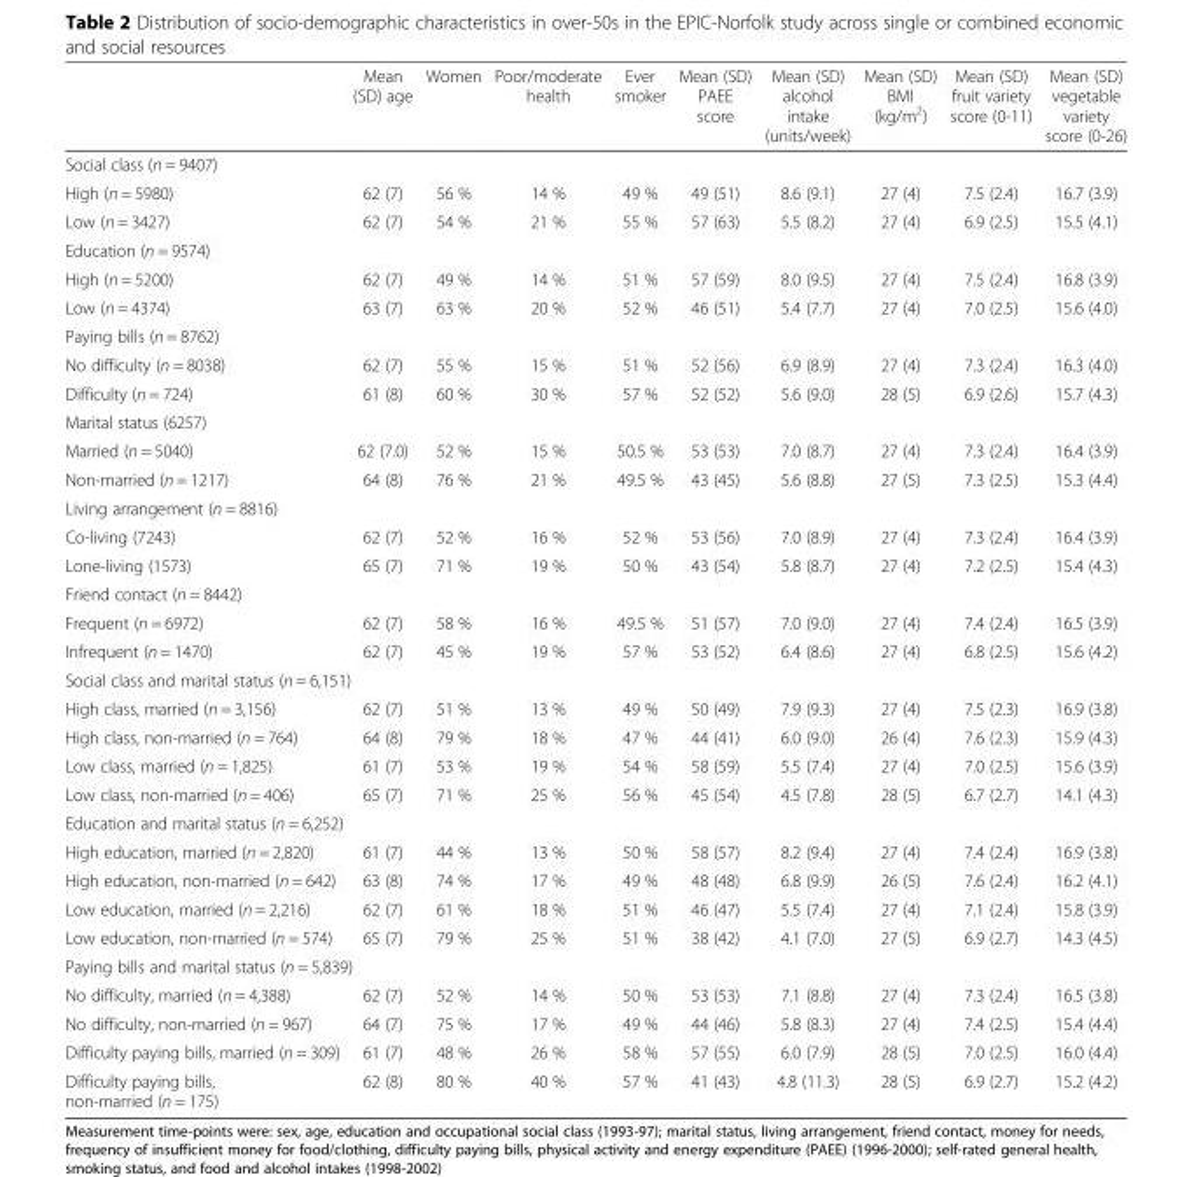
<table><thead><tr><td></td><td>Mean (SD) age</td><td>Women</td><td>Poor/moderate health</td><td>Ever smoker</td><td>Mean (SD) PAEE score</td><td>Mean (SD) alcohol intake (units/week)</td><td>Mean (SD) BMI (kg/m<sup>2</sup>)</td><td>Mean (SD) fruit variety score (0-11)</td><td>Mean (SD) vegetable variety score (0-26)</td></tr></thead><tbody><tr><td colspan="10">Social class (n = 9407)</td></tr><tr><td>High (n = 5980)</td><td>62 (7)</td><td>56 %</td><td>14 %</td><td>49 %</td><td>49 (51)</td><td>8.6 (9.1)</td><td>27 (4)</td><td>7.5 (2.4)</td><td>16.7 (3.9)</td></tr><tr><td>Low (n = 3427)</td><td>62 (7)</td><td>54 %</td><td>21 %</td><td>55 %</td><td>57 (63)</td><td>5.5 (8.2)</td><td>27 (4)</td><td>6.9 (2.5)</td><td>15.5 (4.1)</td></tr><tr><td colspan="10">Education (n = 9574)</td></tr><tr><td>High (n = 5200)</td><td>62 (7)</td><td>49 %</td><td>14 %</td><td>51 %</td><td>57 (59)</td><td>8.0 (9.5)</td><td>27 (4)</td><td>7.5 (2.4)</td><td>16.8 (3.9)</td></tr><tr><td>Low (n = 4374)</td><td>63 (7)</td><td>63 %</td><td>20 %</td><td>52 %</td><td>46 (51)</td><td>5.4 (7.7)</td><td>27 (4)</td><td>7.0 (2.5)</td><td>15.6 (4.0)</td></tr><tr><td colspan="10">Paying bills (n = 8762)</td></tr><tr><td>No difficulty (n = 8038)</td><td>62 (7)</td><td>55 %</td><td>15 %</td><td>51 %</td><td>52 (56)</td><td>6.9 (8.9)</td><td>27 (4)</td><td>7.3 (2.4)</td><td>16.3 (4.0)</td></tr><tr><td>Difficulty (n = 724)</td><td>61 (8)</td><td>60 %</td><td>30 %</td><td>57 %</td><td>52 (52)</td><td>5.6 (9.0)</td><td>28 (5)</td><td>6.9 (2.6)</td><td>15.7 (4.3)</td></tr><tr><td colspan="10">Marital status (6257)</td></tr><tr><td>Married (n = 5040)</td><td>62 (7.0)</td><td>52 %</td><td>15 %</td><td>50.5 %</td><td>53 (53)</td><td>7.0 (8.7)</td><td>27 (4)</td><td>7.3 (2.4)</td><td>16.4 (3.9)</td></tr><tr><td>Non-married (n = 1217)</td><td>64 (8)</td><td>76 %</td><td>21 %</td><td>49.5 %</td><td>43 (45)</td><td>5.6 (8.8)</td><td>27 (5)</td><td>7.3 (2.5)</td><td>15.3 (4.4)</td></tr><tr><td colspan="10">Living arrangement (n = 8816)</td></tr><tr><td>Co-living (7243)</td><td>62 (7)</td><td>52 %</td><td>16 %</td><td>52 %</td><td>53 (56)</td><td>7.0 (8.9)</td><td>27 (4)</td><td>7.3 (2.4)</td><td>16.4 (3.9)</td></tr><tr><td>Lone-living (1573)</td><td>65 (7)</td><td>71 %</td><td>19 %</td><td>50 %</td><td>43 (54)</td><td>5.8 (8.7)</td><td>27 (4)</td><td>7.2 (2.5)</td><td>15.4 (4.3)</td></tr><tr><td colspan="10">Friend contact (n = 8442)</td></tr><tr><td>Frequent (n = 6972)</td><td>62 (7)</td><td>58 %</td><td>16 %</td><td>49.5 %</td><td>51 (57)</td><td>7.0 (9.0)</td><td>27 (4)</td><td>7.4 (2.4)</td><td>16.5 (3.9)</td></tr><tr><td>Infrequent (n = 1470)</td><td>62 (7)</td><td>45 %</td><td>19 %</td><td>57 %</td><td>53 (52)</td><td>6.4 (8.6)</td><td>27 (4)</td><td>6.8 (2.5)</td><td>15.6 (4.2)</td></tr><tr><td colspan="10">Social class and marital status (n = 6,151)</td></tr><tr><td>High class, married (n = 3,156)</td><td>62 (7)</td><td>51 %</td><td>13 %</td><td>49 %</td><td>50 (49)</td><td>7.9 (9.3)</td><td>27 (4)</td><td>7.5 (2.3)</td><td>16.9 (3.8)</td></tr><tr><td>High class, non-married (n = 764)</td><td>64 (8)</td><td>79 %</td><td>18 %</td><td>47 %</td><td>44 (41)</td><td>6.0 (9.0)</td><td>26 (4)</td><td>7.6 (2.3)</td><td>15.9 (4.3)</td></tr><tr><td>Low class, married (n = 1,825)</td><td>61 (7)</td><td>53 %</td><td>19 %</td><td>54 %</td><td>58 (59)</td><td>5.5 (7.4)</td><td>27 (4)</td><td>7.0 (2.5)</td><td>15.6 (3.9)</td></tr><tr><td>Low class, non-married (n = 406)</td><td>65 (7)</td><td>71 %</td><td>25 %</td><td>56 %</td><td>45 (54)</td><td>4.5 (7.8)</td><td>28 (5)</td><td>6.7 (2.7)</td><td>14.1 (4.3)</td></tr><tr><td colspan="10">Education and marital status (n = 6,252)</td></tr><tr><td>High education, married (n = 2,820)</td><td>61 (7)</td><td>44 %</td><td>13 %</td><td>50 %</td><td>58 (57)</td><td>8.2 (9.4)</td><td>27 (4)</td><td>7.4 (2.4)</td><td>16.9 (3.8)</td></tr><tr><td>High education, non-married (n = 642)</td><td>63 (8)</td><td>74 %</td><td>17 %</td><td>49 %</td><td>48 (48)</td><td>6.8 (9.9)</td><td>26 (5)</td><td>7.6 (2.4)</td><td>16.2 (4.1)</td></tr><tr><td>Low education, married (n = 2,216)</td><td>62 (7)</td><td>61 %</td><td>18 %</td><td>51 %</td><td>46 (47)</td><td>5.5 (7.4)</td><td>27 (4)</td><td>7.1 (2.4)</td><td>15.8 (3.9)</td></tr><tr><td>Low education, non-married (n = 574)</td><td>65 (7)</td><td>79 %</td><td>25 %</td><td>51 %</td><td>38 (42)</td><td>4.1 (7.0)</td><td>27 (5)</td><td>6.9 (2.7)</td><td>14.3 (4.5)</td></tr><tr><td colspan="10">Paying bills and marital status (n = 5,839)</td></tr><tr><td>No difficulty, married (n = 4,388)</td><td>62 (7)</td><td>52 %</td><td>14 %</td><td>50 %</td><td>53 (53)</td><td>7.1 (8.8)</td><td>27 (4)</td><td>7.3 (2.4)</td><td>16.5 (3.8)</td></tr><tr><td>No difficulty, non-married (n = 967)</td><td>64 (7)</td><td>75 %</td><td>17 %</td><td>49 %</td><td>44 (46)</td><td>5.8 (8.3)</td><td>27 (4)</td><td>7.4 (2.5)</td><td>15.4 (4.4)</td></tr><tr><td>Difficulty paying bills, married (n = 309)</td><td>61 (7)</td><td>48 %</td><td>26 %</td><td>58 %</td><td>57 (55)</td><td>6.0 (7.9)</td><td>28 (5)</td><td>7.0 (2.5)</td><td>16.0 (4.4)</td></tr><tr><td>Difficulty paying bills, non-married (n = 175)</td><td>62 (8)</td><td>80 %</td><td>40 %</td><td>57 %</td><td>41 (43)</td><td>4.8 (11.3)</td><td>28 (5)</td><td>6.9 (2.7)</td><td>15.2 (4.2)</td></tr></tbody></table>